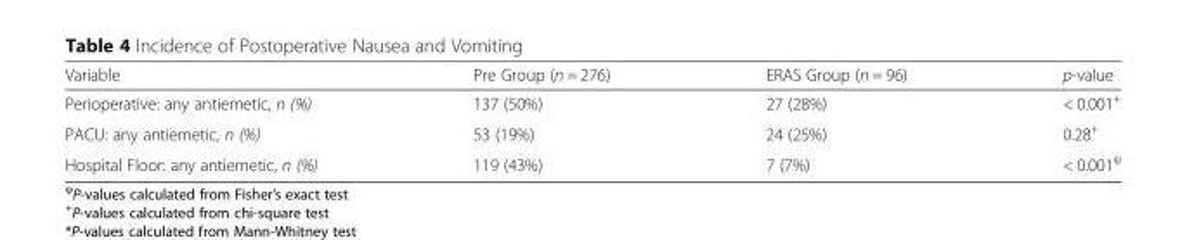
<table><thead><tr><td>Variable</td><td>Pre Group (n = 276)</td><td>ERAS Group (n = 96)</td><td>p-value</td></tr></thead><tbody><tr><td>Perioperative: any antiemetic, n (%)</td><td>137 (50%)</td><td>27 (28%)</td><td>&lt; 0.001<sup>+</sup></td></tr><tr><td>PACU: any antiemetic, n (%)</td><td>53 (19%)</td><td>24 (25%)</td><td>0.28<sup>+</sup></td></tr><tr><td>Hospital Floor: any antiemetic, n (%)</td><td>119 (43%)</td><td>7 (7%)</td><td>&lt; 0.001<sup>ψ</sup></td></tr></tbody></table>